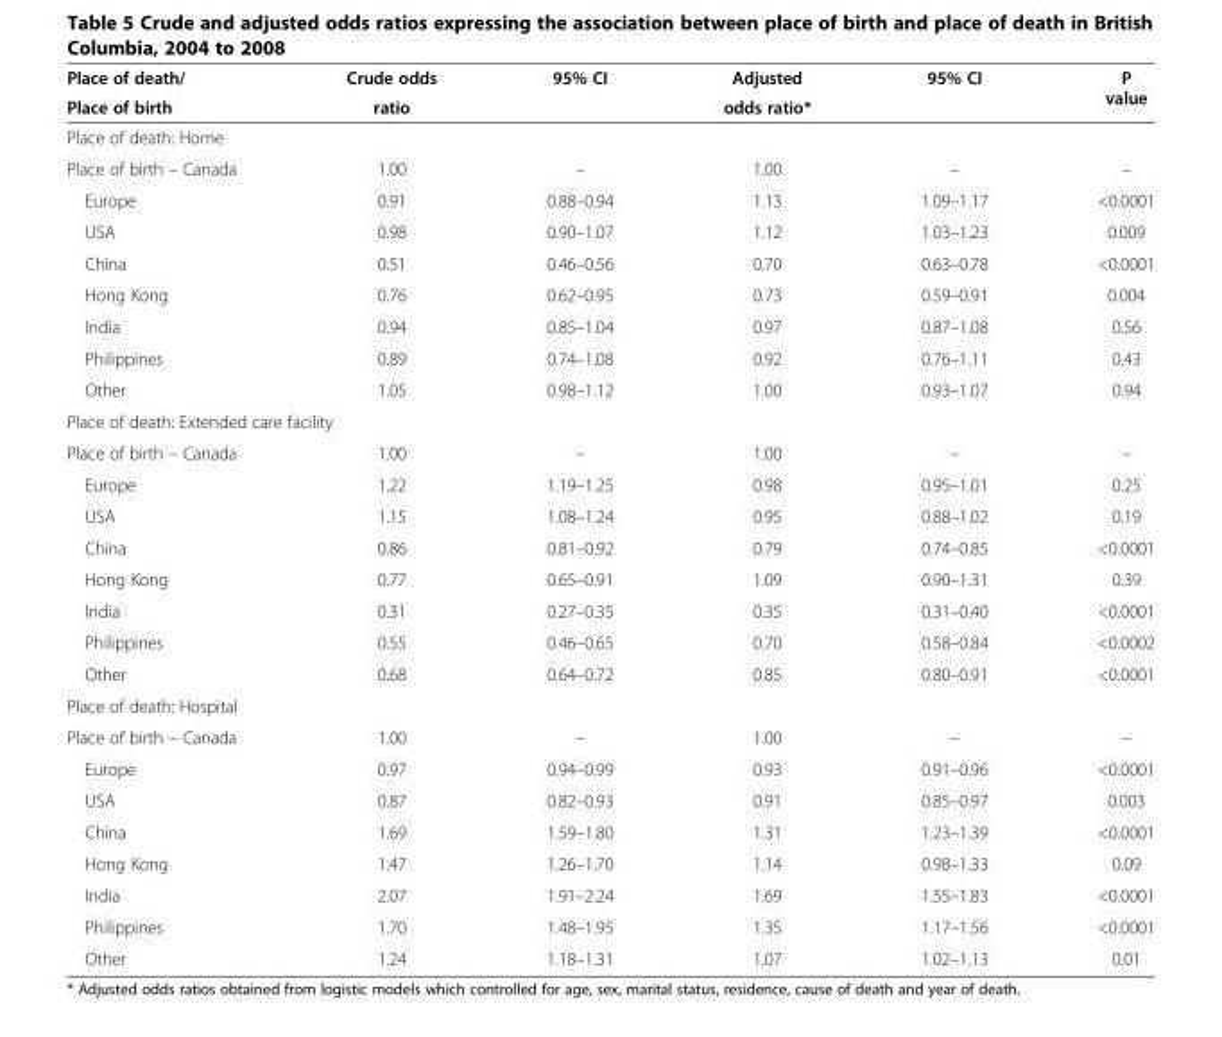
<table><thead><tr><td rowspan="2">Place of death/ Place of birth</td><td rowspan="2">Crude odds ratio</td><td rowspan="2">95% CI</td><td rowspan="2">Adjusted odds ratio*</td><td rowspan="2">95% CI</td><td rowspan="2">P value</td></tr><tr></tr></thead><tbody><tr><td colspan="6">Place of death: Home</td></tr><tr><td>Place of birth – Canada</td><td>1.00</td><td>–</td><td>1.00</td><td>–</td><td>–</td></tr><tr><td>Europe</td><td>0.91</td><td>0.88–0.94</td><td>1.13</td><td>1.09–1.17</td><td>&lt;0.0001</td></tr><tr><td>USA</td><td>0.98</td><td>0.90–1.07</td><td>1.12</td><td>1.03–1.23</td><td>0.009</td></tr><tr><td>China</td><td>0.51</td><td>0.46–0.56</td><td>0.70</td><td>0.63–0.78</td><td>&lt;0.0001</td></tr><tr><td>Hong Kong</td><td>0.76</td><td>0.62–0.95</td><td>0.73</td><td>0.59–0.91</td><td>0.004</td></tr><tr><td>India</td><td>0.94</td><td>0.85–1.04</td><td>0.97</td><td>0.87–1.08</td><td>0.56</td></tr><tr><td>Philippines</td><td>0.89</td><td>0.74–1.08</td><td>0.92</td><td>0.76–1.11</td><td>0.43</td></tr><tr><td>Other</td><td>1.05</td><td>0.98–1.12</td><td>1.00</td><td>0.93–1.07</td><td>0.94</td></tr><tr><td colspan="6">Place of death: Extended care facility</td></tr><tr><td>Place of birth – Canada</td><td>1.00</td><td>–</td><td>1.00</td><td>–</td><td>–</td></tr><tr><td>Europe</td><td>1.22</td><td>1.19–1.25</td><td>0.98</td><td>0.95–1.01</td><td>0.25</td></tr><tr><td>USA</td><td>1.15</td><td>1.08–1.24</td><td>0.95</td><td>0.88–1.02</td><td>0.19</td></tr><tr><td>China</td><td>0.86</td><td>0.81–0.92</td><td>0.79</td><td>0.74–0.85</td><td>&lt;0.0001</td></tr><tr><td>Hong Kong</td><td>0.77</td><td>0.65–0.91</td><td>1.09</td><td>0.90–1.31</td><td>0.39</td></tr><tr><td>India</td><td>0.31</td><td>0.27–0.35</td><td>0.35</td><td>0.31–0.40</td><td>&lt;0.0001</td></tr><tr><td>Philippines</td><td>0.55</td><td>0.46–0.65</td><td>0.70</td><td>0.58–0.84</td><td>&lt;0.0002</td></tr><tr><td>Other</td><td>0.68</td><td>0.64–0.72</td><td>0.85</td><td>0.80–0.91</td><td>&lt;0.0001</td></tr><tr><td colspan="6">Place of death: Hospital</td></tr><tr><td>Place of birth – Canada</td><td>1.00</td><td>–</td><td>1.00</td><td>–</td><td>–</td></tr><tr><td>Europe</td><td>0.97</td><td>0.94–0.99</td><td>0.93</td><td>0.91–0.96</td><td>&lt;0.0001</td></tr><tr><td>USA</td><td>0.87</td><td>0.82–0.93</td><td>0.91</td><td>0.85–0.97</td><td>0.003</td></tr><tr><td>China</td><td>1.69</td><td>1.59–1.80</td><td>1.31</td><td>1.23–1.39</td><td>&lt;0.0001</td></tr><tr><td>Hong Kong</td><td>1.47</td><td>1.26–1.70</td><td>1.14</td><td>0.98–1.33</td><td>0.09</td></tr><tr><td>India</td><td>2.07</td><td>1.91–2.24</td><td>1.69</td><td>1.55–1.83</td><td>&lt;0.0001</td></tr><tr><td>Philippines</td><td>1.70</td><td>1.48–1.95</td><td>1.35</td><td>1.17–1.56</td><td>&lt;0.0001</td></tr><tr><td>Other</td><td>1.24</td><td>1.18–1.31</td><td>1.07</td><td>1.02–1.13</td><td>0.01</td></tr></tbody></table>